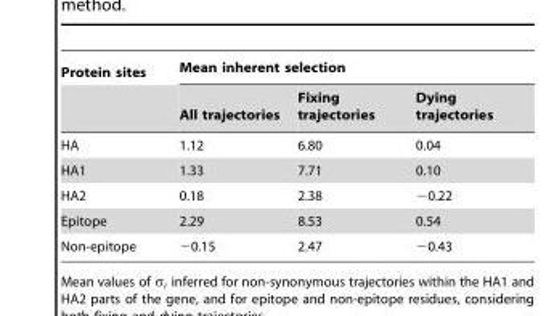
<table><thead><tr><td rowspan="2">Protein sites</td><td colspan="3">Mean inherent selection</td></tr><tr><td>All trajectories</td><td>Fixing trajectories</td><td>Dying trajectories</td></tr></thead><tbody><tr><td>HA</td><td>1.12</td><td>6.80</td><td>0.04</td></tr><tr><td>HA1</td><td>1.33</td><td>7.71</td><td>0.10</td></tr><tr><td>HA2</td><td>0.18</td><td>2.38</td><td>−0.22</td></tr><tr><td>Epitope</td><td>2.29</td><td>8.53</td><td>0.54</td></tr><tr><td>Non-epitope</td><td>−0.15</td><td>2.47</td><td>−0.43</td></tr></tbody></table>